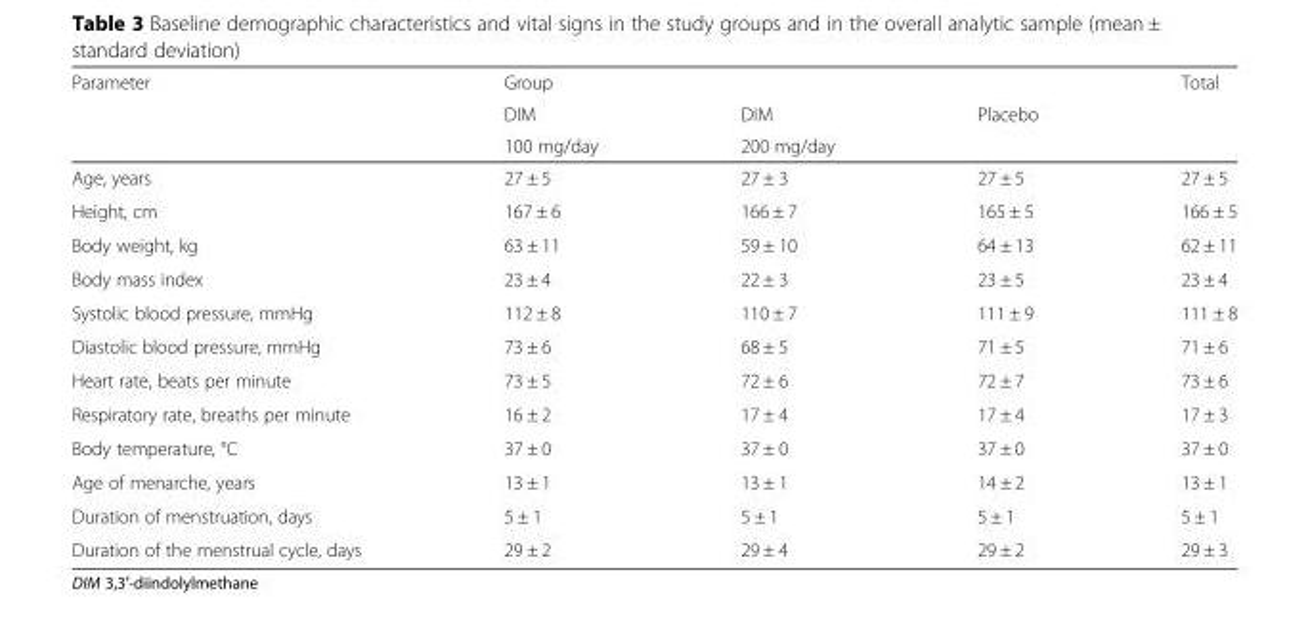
<table><thead><tr><td rowspan="3">Parameter</td><td rowspan="3">Group DIM 100 mg/day</td><td rowspan="3">DIM 200 mg/day</td><td rowspan="3">Placebo</td><td rowspan="3">Total</td></tr><tr></tr><tr></tr></thead><tbody><tr><td>Age, years</td><td>27 ± 5</td><td>27 ± 3</td><td>27 ± 5</td><td>27 ± 5</td></tr><tr><td>Height, cm</td><td>167 ± 6</td><td>166 ± 7</td><td>165 ± 5</td><td>166 ± 5</td></tr><tr><td>Body weight, kg</td><td>63 ± 11</td><td>59 ± 10</td><td>64 ± 13</td><td>62 ± 11</td></tr><tr><td>Body mass index</td><td>23 ± 4</td><td>22 ± 3</td><td>23 ± 5</td><td>23 ± 4</td></tr><tr><td>Systolic blood pressure, mmHg</td><td>112 ± 8</td><td>110 ± 7</td><td>111 ± 9</td><td>111 ± 8</td></tr><tr><td>Diastolic blood pressure, mmHg</td><td>73 ± 6</td><td>68 ± 5</td><td>71 ± 5</td><td>71 ± 6</td></tr><tr><td>Heart rate, beats per minute</td><td>73 ± 5</td><td>72 ± 6</td><td>72 ± 7</td><td>73 ± 6</td></tr><tr><td>Respiratory rate, breaths per minute</td><td>16 ± 2</td><td>17 ± 4</td><td>17 ± 4</td><td>17 ± 3</td></tr><tr><td>Body temperature, °C</td><td>37 ± 0</td><td>37 ± 0</td><td>37 ± 0</td><td>37 ± 0</td></tr><tr><td>Age of menarche, years</td><td>13 ± 1</td><td>13 ± 1</td><td>14 ± 2</td><td>13 ± 1</td></tr><tr><td>Duration of menstruation, days</td><td>5 ± 1</td><td>5 ± 1</td><td>5 ± 1</td><td>5 ± 1</td></tr><tr><td>Duration of the menstrual cycle, days</td><td>29 ± 2</td><td>29 ± 4</td><td>29 ± 2</td><td>29 ± 3</td></tr></tbody></table>